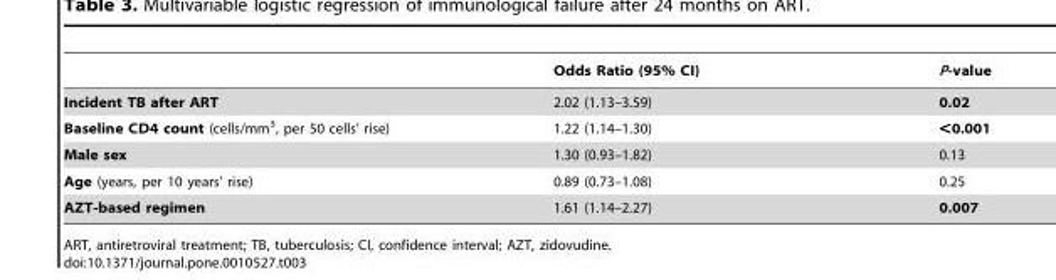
<table><thead><tr><td></td><td>Odds Ratio (95% CI)</td><td>P-value</td></tr></thead><tbody><tr><td>Incident TB after ART</td><td>2.02 (1.13–3.59)</td><td>0.02</td></tr><tr><td>Baseline CD4 count (cells/mm<sup>3</sup>, per 50 cells’ rise)</td><td>1.22 (1.14–1.30)</td><td>&lt;0.001</td></tr><tr><td>Male sex</td><td>1.30 (0.93–1.82)</td><td>0.13</td></tr><tr><td>Age (years, per 10 years’ rise)</td><td>0.89 (0.73–1.08)</td><td>0.25</td></tr><tr><td>AZT-based regimen</td><td>1.61 (1.14–2.27)</td><td>0.007</td></tr></tbody></table>